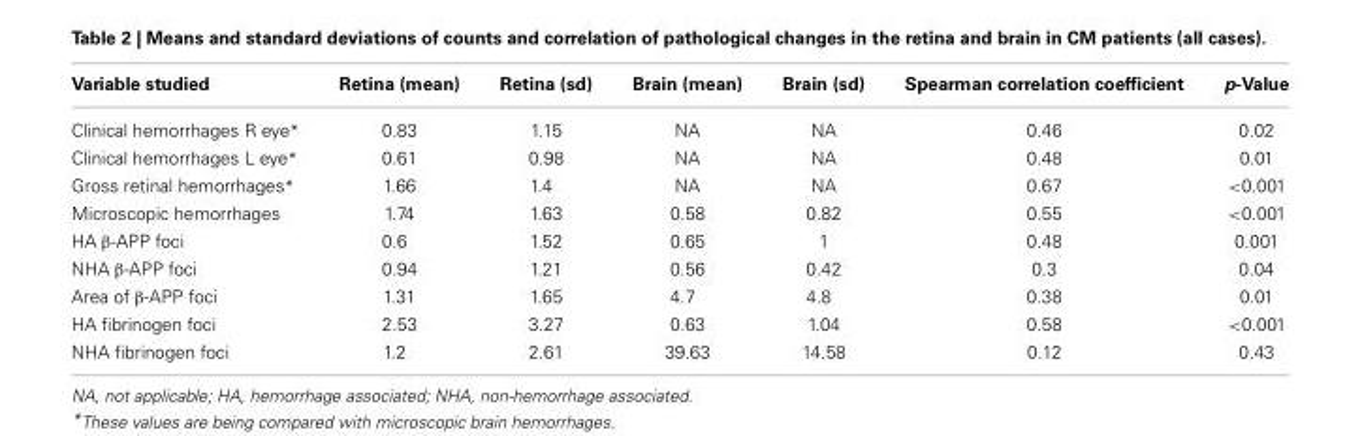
<table><thead><tr><td>Variable studied</td><td>Retina (mean)</td><td>Retina (sd)</td><td>Brain (mean)</td><td>Brain (sd)</td><td>Spearman correlation coefficient</td><td>p-Value</td></tr></thead><tbody><tr><td>Clinical hemorrhages R eye*</td><td>0.83</td><td>1.15</td><td>NA</td><td>NA</td><td>0.46</td><td>0.02</td></tr><tr><td>Clinical hemorrhages L eye*</td><td>0.61</td><td>0.98</td><td>NA</td><td>NA</td><td>0.48</td><td>0.01</td></tr><tr><td>Gross retinal hemorrhages*</td><td>1.66</td><td>1.4</td><td>NA</td><td>NA</td><td>0.67</td><td>&lt;0.001</td></tr><tr><td>Microscopic hemorrhages</td><td>1.74</td><td>1.63</td><td>0.58</td><td>0.82</td><td>0.55</td><td>&lt;0.001</td></tr><tr><td>HA β-APP foci</td><td>0.6</td><td>1.52</td><td>0.65</td><td>1</td><td>0.48</td><td>0.001</td></tr><tr><td>NHA β-APP foci</td><td>0.94</td><td>1.21</td><td>0.56</td><td>0.42</td><td>0.3</td><td>0.04</td></tr><tr><td>Area of β-APP foci</td><td>1.31</td><td>1.65</td><td>4.7</td><td>4.8</td><td>0.38</td><td>0.01</td></tr><tr><td>HA fibrinogen foci</td><td>2.53</td><td>3.27</td><td>0.63</td><td>1.04</td><td>0.58</td><td>&lt;0.001</td></tr><tr><td>NHA fibrinogen foci</td><td>1.2</td><td>2.61</td><td>39.63</td><td>14.58</td><td>0.12</td><td>0.43</td></tr></tbody></table>